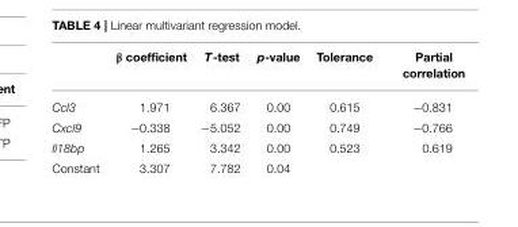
<table><thead><tr><td></td><td>β coefficient</td><td>T-test</td><td>p-value</td><td>Tolerance</td><td>Partial correlation</td></tr></thead><tbody><tr><td>Ccl3</td><td>1.971</td><td>6.367</td><td>0.00</td><td>0.615</td><td>−0.831</td></tr><tr><td>Cxcl9</td><td>−0.338</td><td>−5.052</td><td>0.00</td><td>0.749</td><td>−0.766</td></tr><tr><td>Il18bp</td><td>1.265</td><td>3.342</td><td>0.00</td><td>0.523</td><td>0.619</td></tr><tr><td>Constant</td><td>3.307</td><td>7.782</td><td>0.04</td><td></td><td></td></tr></tbody></table>